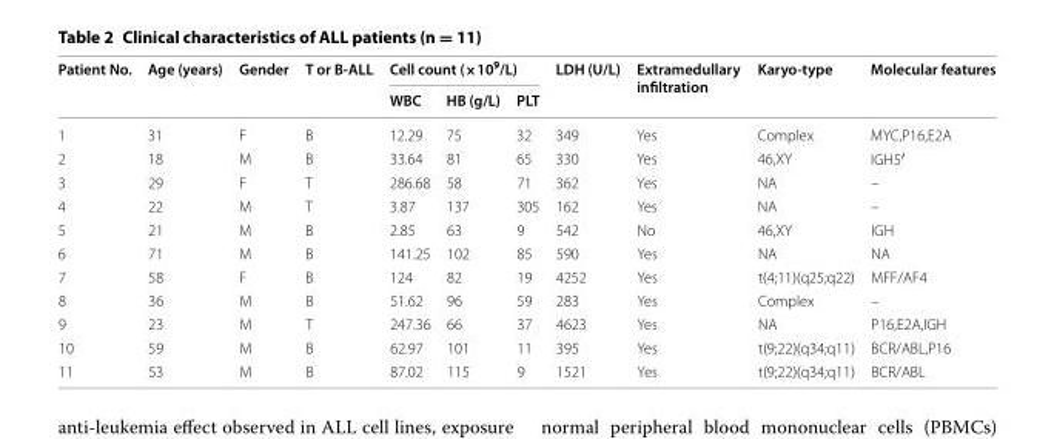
<table><thead><tr><td rowspan="2">Patient No.</td><td rowspan="2">Age (years)</td><td rowspan="2">Gender</td><td rowspan="2">T or B‑ALL</td><td colspan="3">Cell count (×10<sup>9</sup>/L)</td><td rowspan="2">LDH (U/L)</td><td rowspan="2">Extramedullary infiltration</td><td rowspan="2">Karyo‑type</td><td rowspan="2">Molecular features</td></tr><tr><td>WBC</td><td>HB (g/L)</td><td>PLT</td></tr></thead><tbody><tr><td>1</td><td>31</td><td>F</td><td>B</td><td>12.29</td><td>75</td><td>32</td><td>349</td><td>Yes</td><td>Complex</td><td>MYC,P16,E2A</td></tr><tr><td>2</td><td>18</td><td>M</td><td>B</td><td>33.64</td><td>81</td><td>65</td><td>330</td><td>Yes</td><td>46,XY</td><td>IGH5′</td></tr><tr><td>3</td><td>29</td><td>F</td><td>T</td><td>286.68</td><td>58</td><td>71</td><td>362</td><td>Yes</td><td>NA</td><td>–</td></tr><tr><td>4</td><td>22</td><td>M</td><td>T</td><td>3.87</td><td>137</td><td>305</td><td>162</td><td>Yes</td><td>NA</td><td>–</td></tr><tr><td>5</td><td>21</td><td>M</td><td>B</td><td>2.85</td><td>63</td><td>9</td><td>542</td><td>No</td><td>46,XY</td><td>IGH</td></tr><tr><td>6</td><td>71</td><td>M</td><td>B</td><td>141.25</td><td>102</td><td>85</td><td>590</td><td>Yes</td><td>NA</td><td>NA</td></tr><tr><td>7</td><td>58</td><td>F</td><td>B</td><td>124</td><td>82</td><td>19</td><td>4252</td><td>Yes</td><td>t(4;11)(q25;q22)</td><td>MFF/AF4</td></tr><tr><td>8</td><td>36</td><td>M</td><td>B</td><td>51.62</td><td>96</td><td>59</td><td>283</td><td>Yes</td><td>Complex</td><td>–</td></tr><tr><td>9</td><td>23</td><td>M</td><td>T</td><td>247.36</td><td>66</td><td>37</td><td>4623</td><td>Yes</td><td>NA</td><td>P16,E2A,IGH</td></tr><tr><td>10</td><td>59</td><td>M</td><td>B</td><td>62.97</td><td>101</td><td>11</td><td>395</td><td>Yes</td><td>t(9;22)(q34;q11)</td><td>BCR/ABL,P16</td></tr><tr><td>11</td><td>53</td><td>M</td><td>B</td><td>87.02</td><td>115</td><td>9</td><td>1521</td><td>Yes</td><td>t(9;22)(q34;q11)</td><td>BCR/ABL</td></tr></tbody></table>